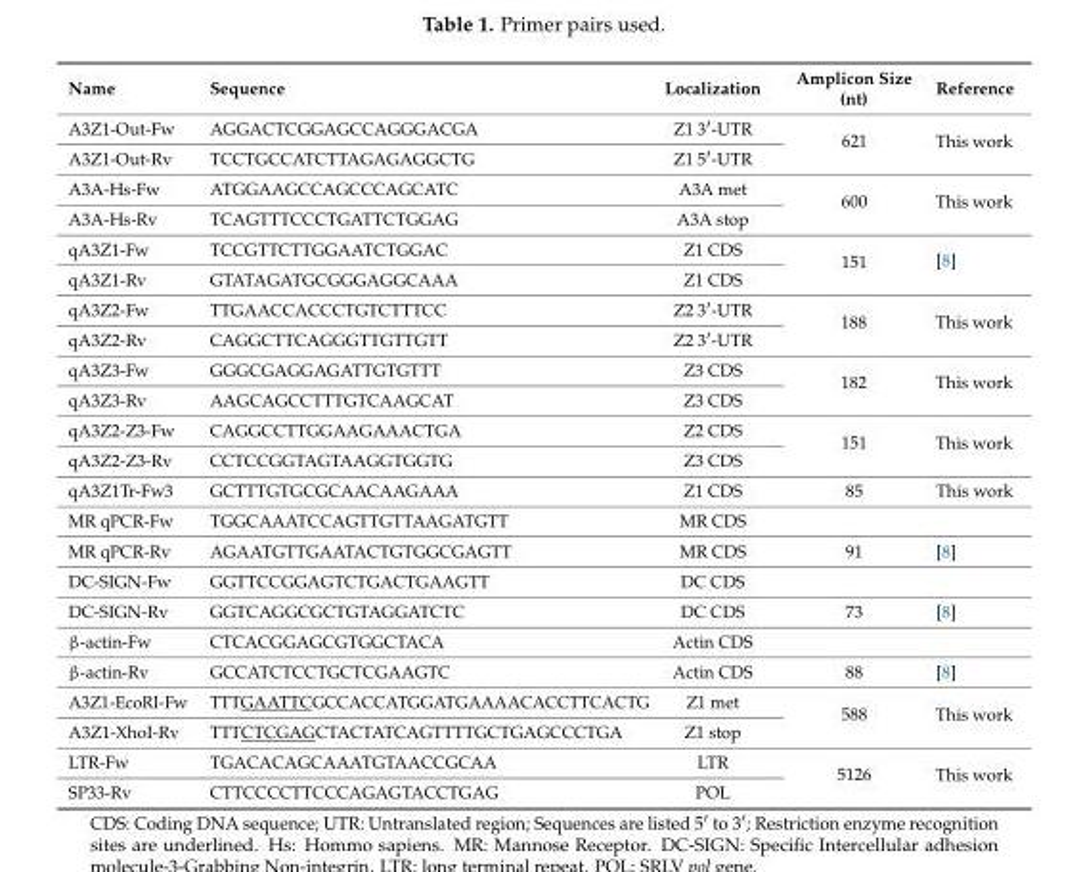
<table><thead><tr><td>Name</td><td>Sequence</td><td>Localization</td><td>Amplicon Size (nt)</td><td>Reference</td></tr></thead><tbody><tr><td>A3Z1-Out-Fw</td><td>AGGACTCGGAGCCAGGGACGA</td><td>Z1 3′-UTR</td><td rowspan="2">621</td><td rowspan="2">This work</td></tr><tr><td>A3Z1-Out-Rv</td><td>TCCTGCCATCTTAGAGAGGCTG</td><td>Z1 5′-UTR</td></tr><tr><td>A3A-Hs-Fw</td><td>ATGGAAGCCAGCCCAGCATC</td><td>A3A met</td><td rowspan="2">600</td><td rowspan="2">This work</td></tr><tr><td>A3A-Hs-Rv</td><td>TCAGTTTCCCTGATTCTGGAG</td><td>A3A stop</td></tr><tr><td>qA3Z1-Fw</td><td>TCCGTTCTTGGAATCTGGAC</td><td>Z1 CDS</td><td rowspan="2">151</td><td rowspan="2">[8]</td></tr><tr><td>qA3Z1-Rv</td><td>GTATAGATGCGGGAGGCAAA</td><td>Z1 CDS</td></tr><tr><td>qA3Z2-Fw</td><td>TTGAACCACCCTGTCTTTCC</td><td>Z2 3′-UTR</td><td rowspan="2">188</td><td rowspan="2">This work</td></tr><tr><td>qA3Z2-Rv</td><td>CAGGCTTCAGGGTTGTTGTT</td><td>Z2 3′-UTR</td></tr><tr><td>qA3Z3-Fw</td><td>GGGCGAGGAGATTGTGTTT</td><td>Z3 CDS</td><td rowspan="2">182</td><td rowspan="2">This work</td></tr><tr><td>qA3Z3-Rv</td><td>AAGCAGCCTTTGTCAAGCAT</td><td>Z3 CDS</td></tr><tr><td>qA3Z2-Z3-Fw</td><td>CAGGCCTTGGAAGAAACTGA</td><td>Z2 CDS</td><td rowspan="2">151</td><td rowspan="2">This work</td></tr><tr><td>qA3Z2-Z3-Rv</td><td>CCTCCGGTAGTAAGGTGGTG</td><td>Z3 CDS</td></tr><tr><td>qA3Z1Tr-Fw3</td><td>GCTTTGTGCGCAACAAGAAA</td><td>Z1 CDS</td><td>85</td><td>This work</td></tr><tr><td>MR qPCR-Fw</td><td>TGGCAAATCCAGTTGTTAAGATGTT</td><td>MR CDS</td><td></td><td></td></tr><tr><td>MR qPCR-Rv</td><td>AGAATGTTGAATACTGTGGCGAGTT</td><td>MR CDS</td><td>91</td><td>[8]</td></tr><tr><td>DC-SIGN-Fw</td><td>GGTTCCGGAGTCTGACTGAAGTT</td><td>DC CDS</td><td></td><td></td></tr><tr><td>DC-SIGN-Rv</td><td>GGTCAGGCGCTGTAGGATCTC</td><td>DC CDS</td><td>73</td><td>[8]</td></tr><tr><td>β-actin-Fw</td><td>CTCACGGAGCGTGGCTACA</td><td>Actin CDS</td><td></td><td></td></tr><tr><td>β-actin-Rv</td><td>GCCATCTCCTGCTCGAAGTC</td><td>Actin CDS</td><td>88</td><td>[8]</td></tr><tr><td>A3Z1-EcoRI-Fw</td><td>TTTGAATTCGCCACCATGGATGAAAACACCTTCACTG</td><td>Z1 met</td><td rowspan="2">588</td><td rowspan="2">This work</td></tr><tr><td>A3Z1-XhoI-Rv</td><td>TTTCTCGAGCTACTATCAGTTTTGCTGAGCCCTGA</td><td>Z1 stop</td></tr><tr><td>LTR-Fw</td><td>TGACACAGCAAATGTAACCGCAA</td><td>LTR</td><td rowspan="2">5126</td><td rowspan="2">This work</td></tr><tr><td>SP33-Rv</td><td>CTTCCCCTTCCCAGAGTACCTGAG</td><td>POL</td></tr></tbody></table>